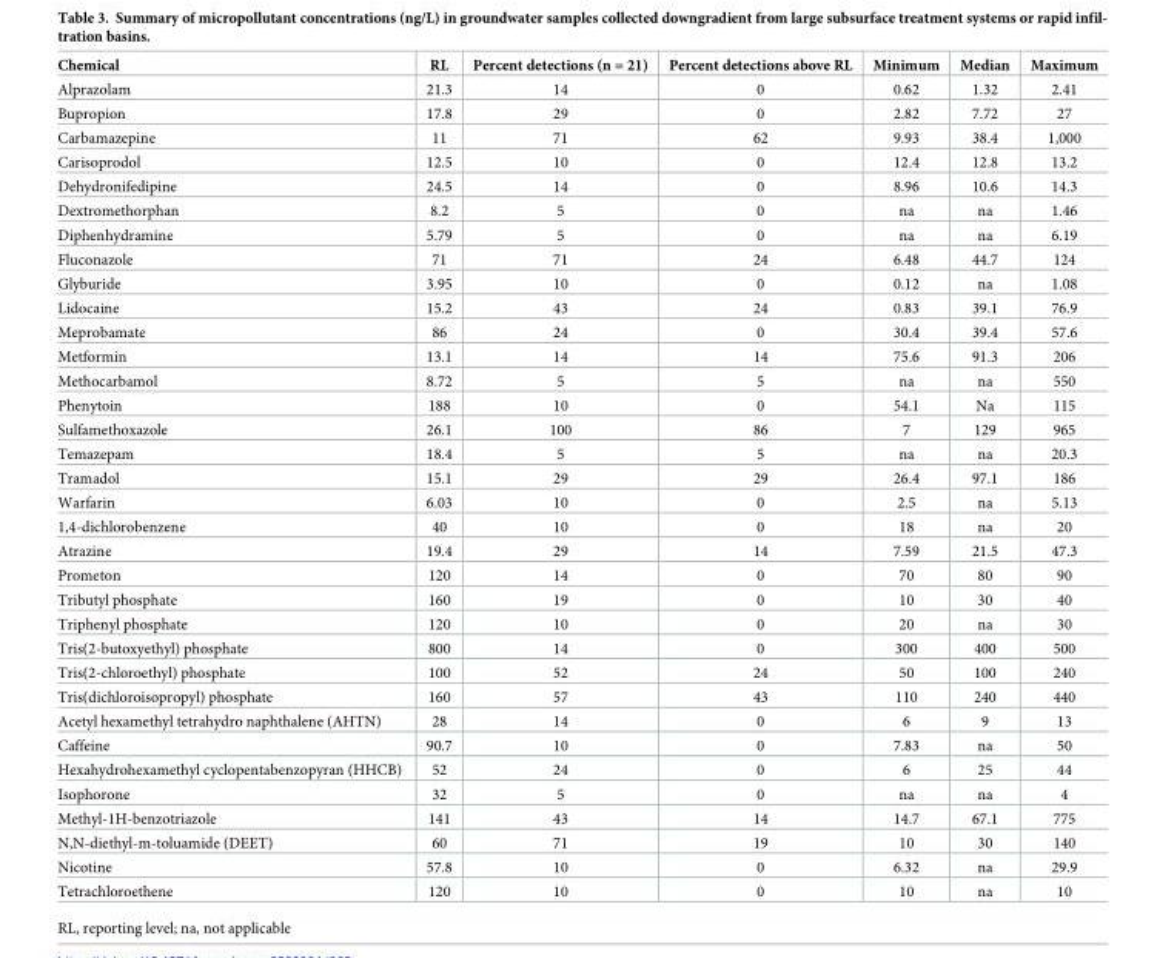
<table><thead><tr><td>Chemical</td><td>RL</td><td>Percent detections (n = 21)</td><td>Percent detections above RL</td><td>Minimum</td><td>Median</td><td>Maximum</td></tr></thead><tbody><tr><td>Alprazolam</td><td>21.3</td><td>14</td><td>0</td><td>0.62</td><td>1.32</td><td>2.41</td></tr><tr><td>Bupropion</td><td>17.8</td><td>29</td><td>0</td><td>2.82</td><td>7.72</td><td>27</td></tr><tr><td>Carbamazepine</td><td>11</td><td>71</td><td>62</td><td>9.93</td><td>38.4</td><td>1,000</td></tr><tr><td>Carisoprodol</td><td>12.5</td><td>10</td><td>0</td><td>12.4</td><td>12.8</td><td>13.2</td></tr><tr><td>Dehydronifedipine</td><td>24.5</td><td>14</td><td>0</td><td>8.96</td><td>10.6</td><td>14.3</td></tr><tr><td>Dextromethorphan</td><td>8.2</td><td>5</td><td>0</td><td>na</td><td>na</td><td>1.46</td></tr><tr><td>Diphenhydramine</td><td>5.79</td><td>5</td><td>0</td><td>na</td><td>na</td><td>6.19</td></tr><tr><td>Fluconazole</td><td>71</td><td>71</td><td>24</td><td>6.48</td><td>44.7</td><td>124</td></tr><tr><td>Glyburide</td><td>3.95</td><td>10</td><td>0</td><td>0.12</td><td>na</td><td>1.08</td></tr><tr><td>Lidocaine</td><td>15.2</td><td>43</td><td>24</td><td>0.83</td><td>39.1</td><td>76.9</td></tr><tr><td>Meprobamate</td><td>86</td><td>24</td><td>0</td><td>30.4</td><td>39.4</td><td>57.6</td></tr><tr><td>Metformin</td><td>13.1</td><td>14</td><td>14</td><td>75.6</td><td>91.3</td><td>206</td></tr><tr><td>Methocarbamol</td><td>8.72</td><td>5</td><td>5</td><td>na</td><td>na</td><td>550</td></tr><tr><td>Phenytoin</td><td>188</td><td>10</td><td>0</td><td>54.1</td><td>Na</td><td>115</td></tr><tr><td>Sulfamethoxazole</td><td>26.1</td><td>100</td><td>86</td><td>7</td><td>129</td><td>965</td></tr><tr><td>Temazepam</td><td>18.4</td><td>5</td><td>5</td><td>na</td><td>na</td><td>20.3</td></tr><tr><td>Tramadol</td><td>15.1</td><td>29</td><td>29</td><td>26.4</td><td>97.1</td><td>186</td></tr><tr><td>Warfarin</td><td>6.03</td><td>10</td><td>0</td><td>2.5</td><td>na</td><td>5.13</td></tr><tr><td>1,4-dichlorobenzene</td><td>40</td><td>10</td><td>0</td><td>18</td><td>na</td><td>20</td></tr><tr><td>Atrazine</td><td>19.4</td><td>29</td><td>14</td><td>7.59</td><td>21.5</td><td>47.3</td></tr><tr><td>Prometon</td><td>120</td><td>14</td><td>0</td><td>70</td><td>80</td><td>90</td></tr><tr><td>Tributyl phosphate</td><td>160</td><td>19</td><td>0</td><td>10</td><td>30</td><td>40</td></tr><tr><td>Triphenyl phosphate</td><td>120</td><td>10</td><td>0</td><td>20</td><td>na</td><td>30</td></tr><tr><td>Tris(2-butoxyethyl) phosphate</td><td>800</td><td>14</td><td>0</td><td>300</td><td>400</td><td>500</td></tr><tr><td>Tris(2-chloroethyl) phosphate</td><td>100</td><td>52</td><td>24</td><td>50</td><td>100</td><td>240</td></tr><tr><td>Tris(dichloroisopropyl) phosphate</td><td>160</td><td>57</td><td>43</td><td>110</td><td>240</td><td>440</td></tr><tr><td>Acetyl hexamethyl tetrahydro naphthalene (AHTN)</td><td>28</td><td>14</td><td>0</td><td>6</td><td>9</td><td>13</td></tr><tr><td>Caffeine</td><td>90.7</td><td>10</td><td>0</td><td>7.83</td><td>na</td><td>50</td></tr><tr><td>Hexahydrohexamethyl cyclopentabenzopyran (HHCB)</td><td>52</td><td>24</td><td>0</td><td>6</td><td>25</td><td>44</td></tr><tr><td>Isophorone</td><td>32</td><td>5</td><td>0</td><td>na</td><td>na</td><td>4</td></tr><tr><td>Methyl-1H-benzotriazole</td><td>141</td><td>43</td><td>14</td><td>14.7</td><td>67.1</td><td>775</td></tr><tr><td>N,N-diethyl-m-toluamide (DEET)</td><td>60</td><td>71</td><td>19</td><td>10</td><td>30</td><td>140</td></tr><tr><td>Nicotine</td><td>57.8</td><td>10</td><td>0</td><td>6.32</td><td>na</td><td>29.9</td></tr><tr><td>Tetrachloroethene</td><td>120</td><td>10</td><td>0</td><td>10</td><td>na</td><td>10</td></tr></tbody></table>